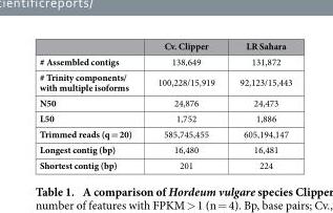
<table><thead><tr><td></td><td>Cv. Clipper</td><td>LR Sahara</td></tr></thead><tbody><tr><td># Assembled contigs</td><td>138,649</td><td>131,872</td></tr><tr><td># Trinity components/ with multiple isoforms</td><td>100,228/15,919</td><td>92,123/15,443</td></tr><tr><td>N50</td><td>24,876</td><td>24,473</td></tr><tr><td>L50</td><td>1,752</td><td>1,886</td></tr><tr><td>Trimmed reads (q = 20)</td><td>585,745,455</td><td>605,194,147</td></tr><tr><td>Longest contig (bp)</td><td>16,480</td><td>16,481</td></tr><tr><td>Shortest contig (bp)</td><td>201</td><td>224</td></tr></tbody></table>